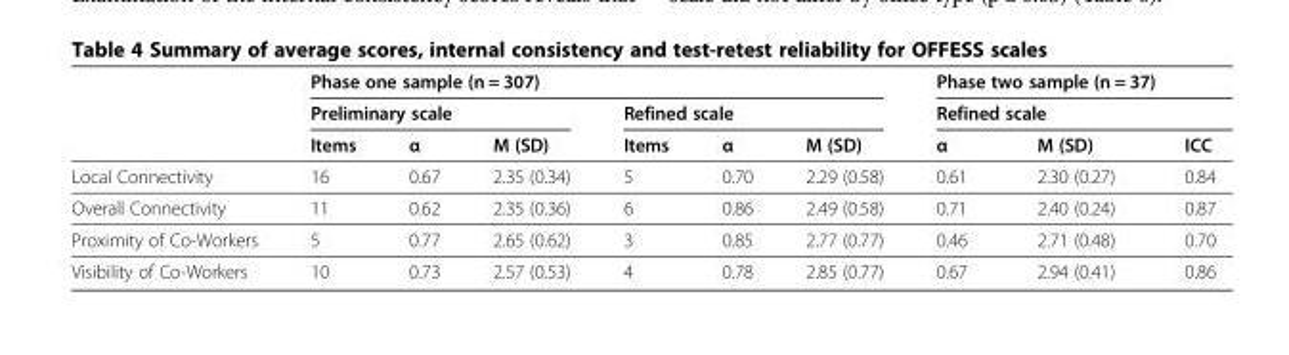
<table><thead><tr><td rowspan="3"></td><td colspan="6">Phase one sample (n = 307)</td><td rowspan="2" colspan="3">Phase two sample (n = 37) Refined scale</td></tr><tr><td colspan="3">Preliminary scale</td><td colspan="3">Refined scale</td></tr><tr><td>Items</td><td>α</td><td>M (SD)</td><td>Items</td><td>α</td><td>M (SD)</td><td>α</td><td>M (SD)</td><td>ICC</td></tr></thead><tbody><tr><td>Local Connectivity</td><td>16</td><td>0.67</td><td>2.35 (0.34)</td><td>5</td><td>0.70</td><td>2.29 (0.58)</td><td>0.61</td><td>2.30 (0.27)</td><td>0.84</td></tr><tr><td>Overall Connectivity</td><td>11</td><td>0.62</td><td>2.35 (0.36)</td><td>6</td><td>0.86</td><td>2.49 (0.58)</td><td>0.71</td><td>2.40 (0.24)</td><td>0.87</td></tr><tr><td>Proximity of Co-Workers</td><td>5</td><td>0.77</td><td>2.65 (0.62)</td><td>3</td><td>0.85</td><td>2.77 (0.77)</td><td>0.46</td><td>2.71 (0.48)</td><td>0.70</td></tr><tr><td>Visibility of Co-Workers</td><td>10</td><td>0.73</td><td>2.57 (0.53)</td><td>4</td><td>0.78</td><td>2.85 (0.77)</td><td>0.67</td><td>2.94 (0.41)</td><td>0.86</td></tr></tbody></table>